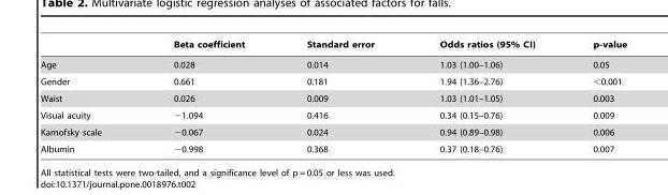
<table><thead><tr><td></td><td>Beta coefficient</td><td>Standard error</td><td>Odds ratios (95% CI)</td><td>p-value</td></tr></thead><tbody><tr><td>Age</td><td>0.028</td><td>0.014</td><td>1.03 (1.00–1.06)</td><td>0.05</td></tr><tr><td>Gender</td><td>0.661</td><td>0.181</td><td>1.94 (1.36–2.76)</td><td>&lt;0.001</td></tr><tr><td>Waist</td><td>0.026</td><td>0.009</td><td>1.03 (1.01–1.05)</td><td>0.003</td></tr><tr><td>Visual acuity</td><td>−1.094</td><td>0.416</td><td>0.34 (0.15–0.76)</td><td>0.009</td></tr><tr><td>Karnofsky scale</td><td>−0.067</td><td>0.024</td><td>0.94 (0.89–0.98)</td><td>0.006</td></tr><tr><td>Albumin</td><td>−0.998</td><td>0.368</td><td>0.37 (0.18–0.76)</td><td>0.007</td></tr></tbody></table>